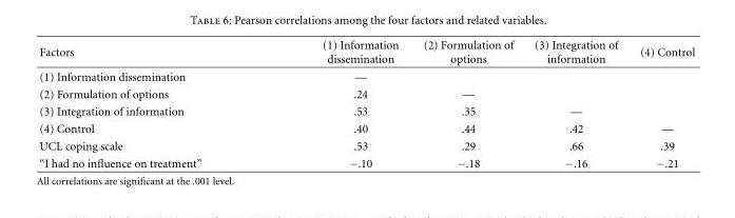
<table><thead><tr><td>Factors</td><td>(1) Information dissemination</td><td>(2) Formulation of options</td><td>(3) Integration of information</td><td>(4) Control</td></tr></thead><tbody><tr><td>(1) Information dissemination</td><td>—</td><td></td><td></td><td></td></tr><tr><td>(2) Formulation of options</td><td>.24</td><td>—</td><td></td><td></td></tr><tr><td>(3) Integration of information</td><td>.53</td><td>.35</td><td>—</td><td></td></tr><tr><td>(4) Control</td><td>.40</td><td>.44</td><td>.42</td><td>—</td></tr><tr><td>UCL coping scale</td><td>.53</td><td>.29</td><td>.66</td><td>.39</td></tr><tr><td>“I had no influence on treatment”</td><td>−.10</td><td>−.18</td><td>−.16</td><td>−.21</td></tr></tbody></table>